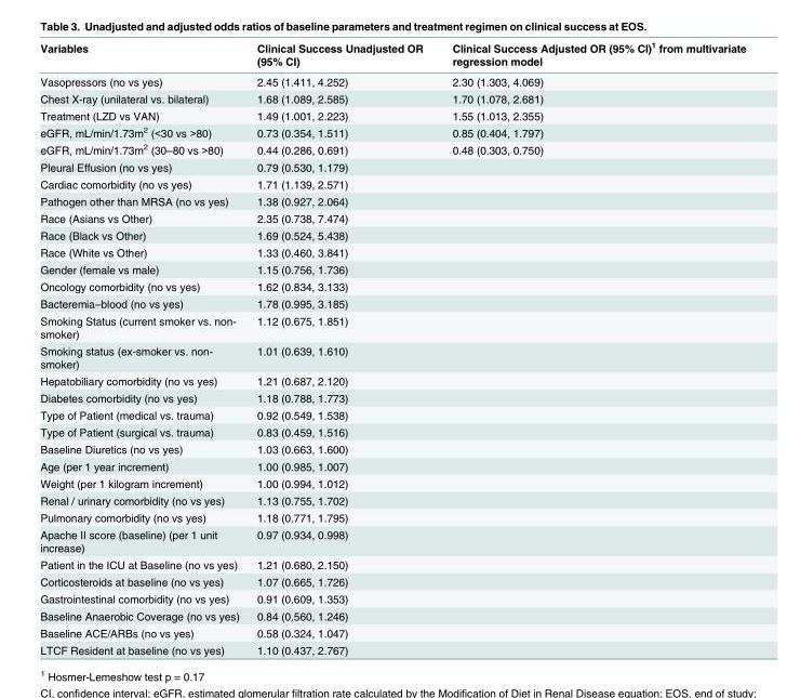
<table><thead><tr><td>Variables</td><td>Clinical Success Unadjusted OR (95% CI)</td><td>Clinical Success Adjusted OR (95% CI)<sup>1</sup> from multivariate regression model</td></tr></thead><tbody><tr><td>Vasopressors (no vs yes)</td><td>2.45 (1.411, 4.252)</td><td>2.30 (1.303, 4.069)</td></tr><tr><td>Chest X-ray (unilateral vs. bilateral)</td><td>1.68 (1.089, 2.585)</td><td>1.70 (1.078, 2.681)</td></tr><tr><td>Treatment (LZD vs VAN)</td><td>1.49 (1.001, 2.223)</td><td>1.55 (1.013, 2.355)</td></tr><tr><td>eGFR, mL/min/1.73m<sup>2</sup> (&lt;30 vs &gt;80)</td><td>0.73 (0.354, 1.511)</td><td>0.85 (0.404, 1.797)</td></tr><tr><td>eGFR, mL/min/1.73m<sup>2</sup> (30–80 vs &gt;80)</td><td>0.44 (0.286, 0.691)</td><td>0.48 (0.303, 0.750)</td></tr><tr><td>Pleural Effusion (no vs yes)</td><td>0.79 (0.530, 1.179)</td><td></td></tr><tr><td>Cardiac comorbidity (no vs yes)</td><td>1.71 (1.139, 2.571)</td><td></td></tr><tr><td>Pathogen other than MRSA (no vs yes)</td><td>1.38 (0.927, 2.064)</td><td></td></tr><tr><td>Race (Asians vs Other)</td><td>2.35 (0.738, 7.474)</td><td></td></tr><tr><td>Race (Black vs Other)</td><td>1.69 (0.524, 5.438)</td><td></td></tr><tr><td>Race (White vs Other)</td><td>1.33 (0.460, 3.841)</td><td></td></tr><tr><td>Gender (female vs male)</td><td>1.15 (0.756, 1.736)</td><td></td></tr><tr><td>Oncology comorbidity (no vs yes)</td><td>1.62 (0.834, 3.133)</td><td></td></tr><tr><td>Bacteremia–blood (no vs yes)</td><td>1.78 (0.995, 3.185)</td><td></td></tr><tr><td>Smoking Status (current smoker vs. non- smoker)</td><td>1.12 (0.675, 1.851)</td><td></td></tr><tr><td>Smoking status (ex-smoker vs. non- smoker)</td><td>1.01 (0.639, 1.610)</td><td></td></tr><tr><td>Hepatobiliary comorbidity (no vs yes)</td><td>1.21 (0.687, 2.120)</td><td></td></tr><tr><td>Diabetes comorbidity (no vs yes)</td><td>1.18 (0.788, 1.773)</td><td></td></tr><tr><td>Type of Patient (medical vs. trauma)</td><td>0.92 (0.549, 1.538)</td><td></td></tr><tr><td>Type of Patient (surgical vs. trauma)</td><td>0.83 (0.459, 1.516)</td><td></td></tr><tr><td>Baseline Diuretics (no vs yes)</td><td>1.03 (0.663, 1.600)</td><td></td></tr><tr><td>Age (per 1 year increment)</td><td>1.00 (0.985, 1.007)</td><td></td></tr><tr><td>Weight (per 1 kilogram increment)</td><td>1.00 (0.994, 1.012)</td><td></td></tr><tr><td>Renal / urinary comorbidity (no vs yes)</td><td>1.13 (0.755, 1.702)</td><td></td></tr><tr><td>Pulmonary comorbidity (no vs yes)</td><td>1.18 (0.771, 1.795)</td><td></td></tr><tr><td>Apache II score (baseline) (per 1 unit increase)</td><td>0.97 (0.934, 0.998)</td><td></td></tr><tr><td>Patient in the ICU at Baseline (no vs yes)</td><td>1.21 (0.680, 2.150)</td><td></td></tr><tr><td>Corticosteroids at baseline (no vs yes)</td><td>1.07 (0.665, 1.726)</td><td></td></tr><tr><td>Gastrointestinal comorbidity (no vs yes)</td><td>0.91 (0.609, 1.353)</td><td></td></tr><tr><td>Baseline Anaerobic Coverage (no vs yes)</td><td>0.84 (0.560, 1.246)</td><td></td></tr><tr><td>Baseline ACE/ARBs (no vs yes)</td><td>0.58 (0.324, 1.047)</td><td></td></tr><tr><td>LTCF Resident at baseline (no vs yes)</td><td>1.10 (0.437, 2.767)</td><td></td></tr></tbody></table>